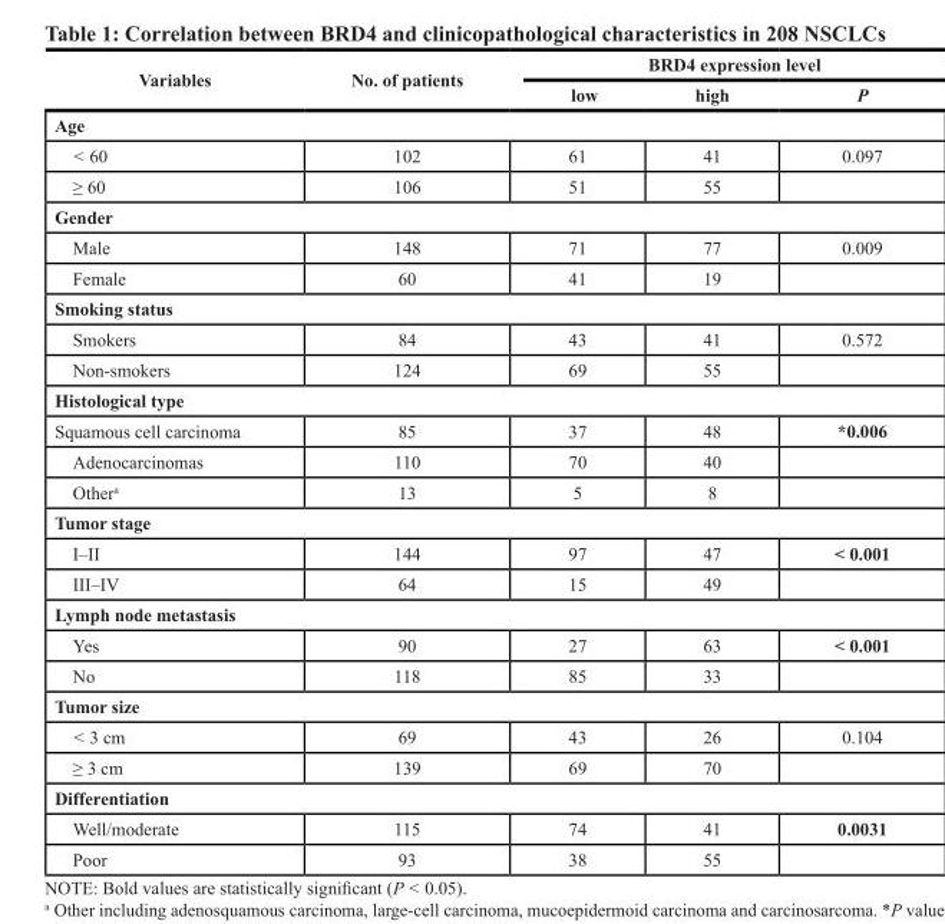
<table><thead><tr><td rowspan="2">Variables</td><td rowspan="2">No. of patients</td><td colspan="3">BRD4 expression level</td></tr><tr><td>low</td><td>high</td><td>P</td></tr></thead><tbody><tr><td colspan="5">Age</td></tr><tr><td>&lt; 60</td><td>102</td><td>61</td><td>41</td><td>0.097</td></tr><tr><td>≥ 60</td><td>106</td><td>51</td><td>55</td><td></td></tr><tr><td colspan="5">Gender</td></tr><tr><td>Male</td><td>148</td><td>71</td><td>77</td><td>0.009</td></tr><tr><td>Female</td><td>60</td><td>41</td><td>19</td><td></td></tr><tr><td colspan="5">Smoking status</td></tr><tr><td>Smokers</td><td>84</td><td>43</td><td>41</td><td>0.572</td></tr><tr><td>Non-smokers</td><td>124</td><td>69</td><td>55</td><td></td></tr><tr><td colspan="5">Histological type</td></tr><tr><td>Squamous cell carcinoma</td><td>85</td><td>37</td><td>48</td><td>*0.006</td></tr><tr><td>Adenocarcinomas</td><td>110</td><td>70</td><td>40</td><td></td></tr><tr><td>Other<sup>a</sup></td><td>13</td><td>5</td><td>8</td><td></td></tr><tr><td colspan="5">Tumor stage</td></tr><tr><td>I–II</td><td>144</td><td>97</td><td>47</td><td>&lt; 0.001</td></tr><tr><td>III–IV</td><td>64</td><td>15</td><td>49</td><td></td></tr><tr><td colspan="5">Lymph node metastasis</td></tr><tr><td>Yes</td><td>90</td><td>27</td><td>63</td><td>&lt; 0.001</td></tr><tr><td>No</td><td>118</td><td>85</td><td>33</td><td></td></tr><tr><td colspan="5">Tumor size</td></tr><tr><td>&lt; 3 cm</td><td>69</td><td>43</td><td>26</td><td>0.104</td></tr><tr><td>≥ 3 cm</td><td>139</td><td>69</td><td>70</td><td></td></tr><tr><td colspan="5">Differentiation</td></tr><tr><td>Well/moderate</td><td>115</td><td>74</td><td>41</td><td>0.0031</td></tr><tr><td>Poor</td><td>93</td><td>38</td><td>55</td><td></td></tr></tbody></table>